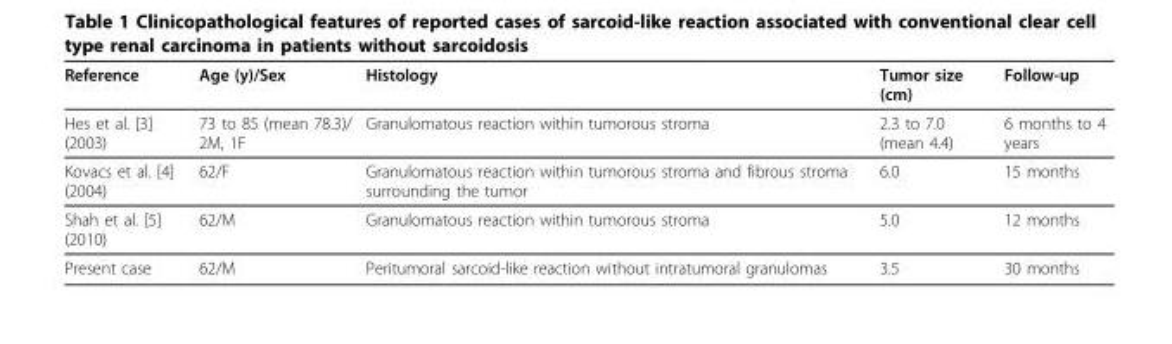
<table><thead><tr><td>Reference</td><td>Age (y)/Sex</td><td>Histology</td><td>Tumor size (cm)</td><td>Follow-up</td></tr></thead><tbody><tr><td>Hes et al. [3] (2003)</td><td>73 to 85 (mean 78.3)/ 2M, 1F</td><td>Granulomatous reaction within tumorous stroma</td><td>2.3 to 7.0 (mean 4.4)</td><td>6 months to 4 years</td></tr><tr><td>Kovacs et al. [4] (2004)</td><td>62/F</td><td>Granulomatous reaction within tumorous stroma and fibrous stroma surrounding the tumor</td><td>6.0</td><td>15 months</td></tr><tr><td>Shah et al. [5] (2010)</td><td>62/M</td><td>Granulomatous reaction within tumorous stroma</td><td>5.0</td><td>12 months</td></tr><tr><td>Present case</td><td>62/M</td><td>Peritumoral sarcoid-like reaction without intratumoral granulomas</td><td>3.5</td><td>30 months</td></tr></tbody></table>